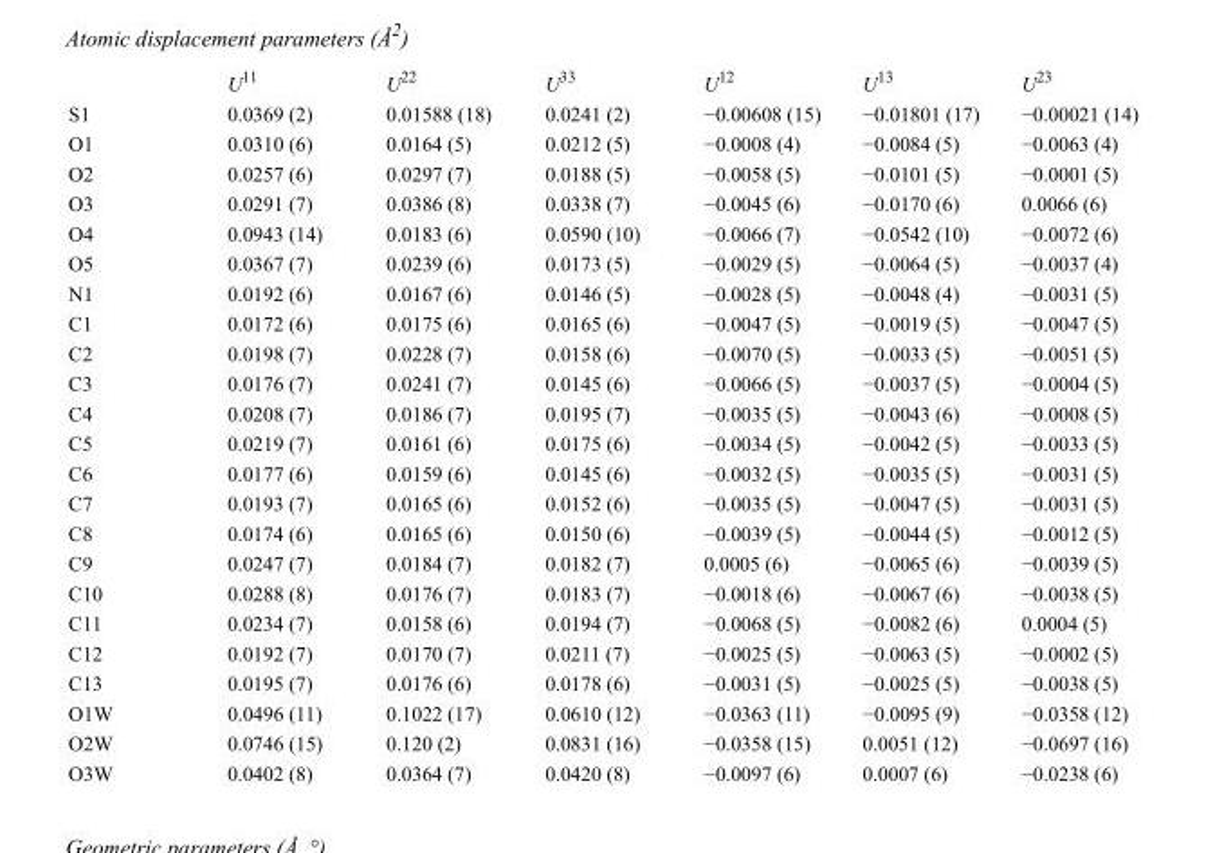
<table><thead><tr><td></td><td>U<sup>11</sup></td><td>U<sup>22</sup></td><td>U<sup>33</sup></td><td>U<sup>12</sup></td><td>U<sup>13</sup></td><td>U<sup>23</sup></td></tr></thead><tbody><tr><td>S1</td><td>0.0369 (2)</td><td>0.01588 (18)</td><td>0.0241 (2)</td><td>−0.00608 (15)</td><td>−0.01801 (17)</td><td>−0.00021 (14)</td></tr><tr><td>O1</td><td>0.0310 (6)</td><td>0.0164 (5)</td><td>0.0212 (5)</td><td>−0.0008 (4)</td><td>−0.0084 (5)</td><td>−0.0063 (4)</td></tr><tr><td>O2</td><td>0.0257 (6)</td><td>0.0297 (7)</td><td>0.0188 (5)</td><td>−0.0058 (5)</td><td>−0.0101 (5)</td><td>−0.0001 (5)</td></tr><tr><td>O3</td><td>0.0291 (7)</td><td>0.0386 (8)</td><td>0.0338 (7)</td><td>−0.0045 (6)</td><td>−0.0170 (6)</td><td>0.0066 (6)</td></tr><tr><td>O4</td><td>0.0943 (14)</td><td>0.0183 (6)</td><td>0.0590 (10)</td><td>−0.0066 (7)</td><td>−0.0542 (10)</td><td>−0.0072 (6)</td></tr><tr><td>O5</td><td>0.0367 (7)</td><td>0.0239 (6)</td><td>0.0173 (5)</td><td>−0.0029 (5)</td><td>−0.0064 (5)</td><td>−0.0037 (4)</td></tr><tr><td>N1</td><td>0.0192 (6)</td><td>0.0167 (6)</td><td>0.0146 (5)</td><td>−0.0028 (5)</td><td>−0.0048 (4)</td><td>−0.0031 (5)</td></tr><tr><td>C1</td><td>0.0172 (6)</td><td>0.0175 (6)</td><td>0.0165 (6)</td><td>−0.0047 (5)</td><td>−0.0019 (5)</td><td>−0.0047 (5)</td></tr><tr><td>C2</td><td>0.0198 (7)</td><td>0.0228 (7)</td><td>0.0158 (6)</td><td>−0.0070 (5)</td><td>−0.0033 (5)</td><td>−0.0051 (5)</td></tr><tr><td>C3</td><td>0.0176 (7)</td><td>0.0241 (7)</td><td>0.0145 (6)</td><td>−0.0066 (5)</td><td>−0.0037 (5)</td><td>−0.0004 (5)</td></tr><tr><td>C4</td><td>0.0208 (7)</td><td>0.0186 (7)</td><td>0.0195 (7)</td><td>−0.0035 (5)</td><td>−0.0043 (6)</td><td>−0.0008 (5)</td></tr><tr><td>C5</td><td>0.0219 (7)</td><td>0.0161 (6)</td><td>0.0175 (6)</td><td>−0.0034 (5)</td><td>−0.0042 (5)</td><td>−0.0033 (5)</td></tr><tr><td>C6</td><td>0.0177 (6)</td><td>0.0159 (6)</td><td>0.0145 (6)</td><td>−0.0032 (5)</td><td>−0.0035 (5)</td><td>−0.0031 (5)</td></tr><tr><td>C7</td><td>0.0193 (7)</td><td>0.0165 (6)</td><td>0.0152 (6)</td><td>−0.0035 (5)</td><td>−0.0047 (5)</td><td>−0.0031 (5)</td></tr><tr><td>C8</td><td>0.0174 (6)</td><td>0.0165 (6)</td><td>0.0150 (6)</td><td>−0.0039 (5)</td><td>−0.0044 (5)</td><td>−0.0012 (5)</td></tr><tr><td>C9</td><td>0.0247 (7)</td><td>0.0184 (7)</td><td>0.0182 (7)</td><td>0.0005 (6)</td><td>−0.0065 (6)</td><td>−0.0039 (5)</td></tr><tr><td>C10</td><td>0.0288 (8)</td><td>0.0176 (7)</td><td>0.0183 (7)</td><td>−0.0018 (6)</td><td>−0.0067 (6)</td><td>−0.0038 (5)</td></tr><tr><td>C11</td><td>0.0234 (7)</td><td>0.0158 (6)</td><td>0.0194 (7)</td><td>−0.0068 (5)</td><td>−0.0082 (6)</td><td>0.0004 (5)</td></tr><tr><td>C12</td><td>0.0192 (7)</td><td>0.0170 (7)</td><td>0.0211 (7)</td><td>−0.0025 (5)</td><td>−0.0063 (5)</td><td>−0.0002 (5)</td></tr><tr><td>C13</td><td>0.0195 (7)</td><td>0.0176 (6)</td><td>0.0178 (6)</td><td>−0.0031 (5)</td><td>−0.0025 (5)</td><td>−0.0038 (5)</td></tr><tr><td>O1W</td><td>0.0496 (11)</td><td>0.1022 (17)</td><td>0.0610 (12)</td><td>−0.0363 (11)</td><td>−0.0095 (9)</td><td>−0.0358 (12)</td></tr><tr><td>O2W</td><td>0.0746 (15)</td><td>0.120 (2)</td><td>0.0831 (16)</td><td>−0.0358 (15)</td><td>0.0051 (12)</td><td>−0.0697 (16)</td></tr><tr><td>O3W</td><td>0.0402 (8)</td><td>0.0364 (7)</td><td>0.0420 (8)</td><td>−0.0097 (6)</td><td>0.0007 (6)</td><td>−0.0238 (6)</td></tr></tbody></table>